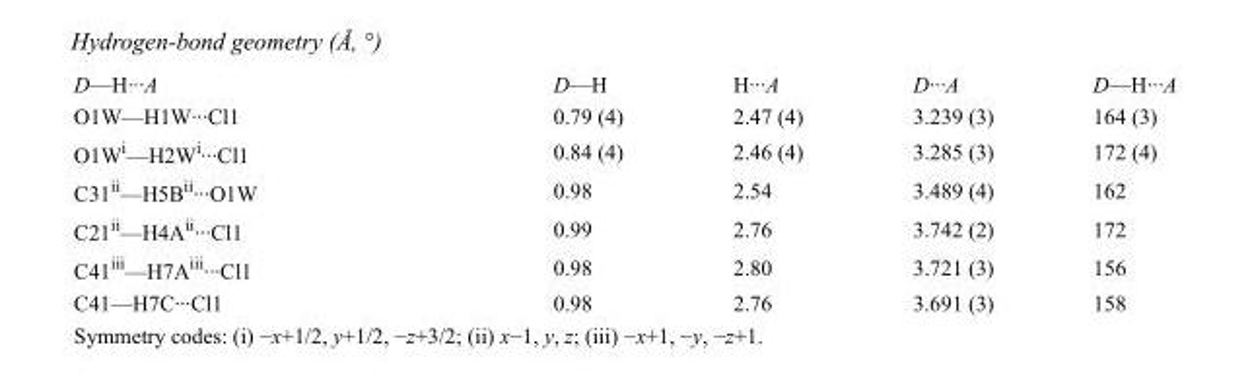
<table><tbody><tr><td>D—H···A</td><td>D—H</td><td>H···A</td><td>D···A</td><td>D—H···A</td></tr><tr><td>O1W—H1W···Cl1</td><td>0.79 (4)</td><td>2.47 (4)</td><td>3.239 (3)</td><td>164 (3)</td></tr><tr><td>O1W<sup>i</sup>—H2W<sup>i</sup>···Cl1</td><td>0.84 (4)</td><td>2.46 (4)</td><td>3.285 (3)</td><td>172 (4)</td></tr><tr><td>C31<sup>ii</sup>—H5B<sup>ii</sup>···O1W</td><td>0.98</td><td>2.54</td><td>3.489 (4)</td><td>162</td></tr><tr><td>C21<sup>ii</sup>—H4A<sup>ii</sup>···Cl1</td><td>0.99</td><td>2.76</td><td>3.742 (2)</td><td>172</td></tr><tr><td>C41<sup>iii</sup>—H7A<sup>iii</sup>···Cl1</td><td>0.98</td><td>2.80</td><td>3.721 (3)</td><td>156</td></tr><tr><td>C41—H7C···Cl1</td><td>0.98</td><td>2.76</td><td>3.691 (3)</td><td>158</td></tr></tbody></table>